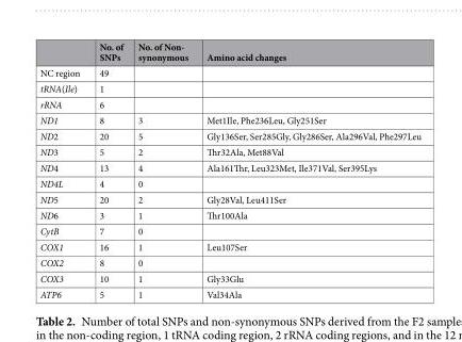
<table><thead><tr><td></td><td>No. of SNPs</td><td>No. of Non- synonymous</td><td>Amino acid changes</td></tr></thead><tbody><tr><td>NC region</td><td>49</td><td></td><td></td></tr><tr><td>tRNA(Ile)</td><td>1</td><td></td><td></td></tr><tr><td>rRNA</td><td>6</td><td></td><td></td></tr><tr><td>ND1</td><td>8</td><td>3</td><td>Met1Ile, Phe236Leu, Gly251Ser</td></tr><tr><td>ND2</td><td>20</td><td>5</td><td>Gly136Ser, Ser285Gly, Gly286Ser, Ala296Val, Phe297Leu</td></tr><tr><td>ND3</td><td>5</td><td>2</td><td>Thr32Ala, Met88Val</td></tr><tr><td>ND4</td><td>13</td><td>4</td><td>Ala161Thr, Leu323Met, Ile371Val, Ser395Lys</td></tr><tr><td>ND4L</td><td>4</td><td>0</td><td></td></tr><tr><td>ND5</td><td>20</td><td>2</td><td>Gly28Val, Leu411Ser</td></tr><tr><td>ND6</td><td>3</td><td>1</td><td>Thr100Ala</td></tr><tr><td>CytB</td><td>7</td><td>0</td><td></td></tr><tr><td>COX1</td><td>16</td><td>1</td><td>Leu107Ser</td></tr><tr><td>COX2</td><td>8</td><td>0</td><td></td></tr><tr><td>COX3</td><td>10</td><td>1</td><td>Gly33Glu</td></tr><tr><td>ATP6</td><td>5</td><td>1</td><td>Val34Ala</td></tr></tbody></table>